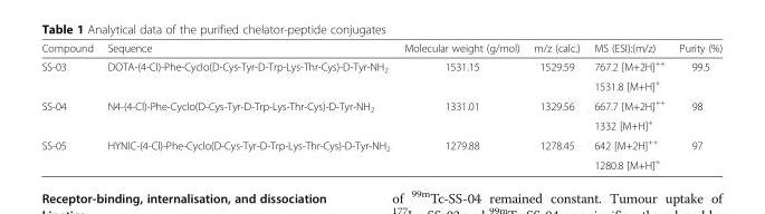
<table><thead><tr><td>Compound</td><td>Sequence</td><td>Molecular weight (g/mol)</td><td>m/z (calc.)</td><td>MS (ESI):(m/z)</td><td>Purity (%)</td></tr></thead><tbody><tr><td rowspan="2">SS-03</td><td rowspan="2">DOTA-(4-Cl)-Phe-Cyclo(D-Cys-Tyr-D-Trp-Lys-Thr-Cys)-D-Tyr-NH<sub>2</sub></td><td rowspan="2">1531.15</td><td rowspan="2">1529.59</td><td>767.2 [M+2H]<sup>++</sup></td><td rowspan="2">99.5</td></tr><tr><td>1531.8 [M+H]<sup>+</sup></td></tr><tr><td rowspan="2">SS-04</td><td rowspan="2">N4-(4-Cl)-Phe-Cyclo(D-Cys-Tyr-D-Trp-Lys-Thr-Cys)-D-Tyr-NH<sub>2</sub></td><td rowspan="2">1331.01</td><td rowspan="2">1329.56</td><td>667.7 [M+2H]<sup>++</sup></td><td rowspan="2">98</td></tr><tr><td>1332 [M+H]<sup>+</sup></td></tr><tr><td rowspan="2">SS-05</td><td rowspan="2">HYNIC-(4-Cl)-Phe-Cyclo(D-Cys-Tyr-D-Trp-Lys-Thr-Cys)-D-Tyr-NH<sub>2</sub></td><td rowspan="2">1279.88</td><td rowspan="2">1278.45</td><td>642 [M+2H]<sup>++</sup></td><td rowspan="2">97</td></tr><tr><td>1280.8 [M+H]<sup>+</sup></td></tr></tbody></table>